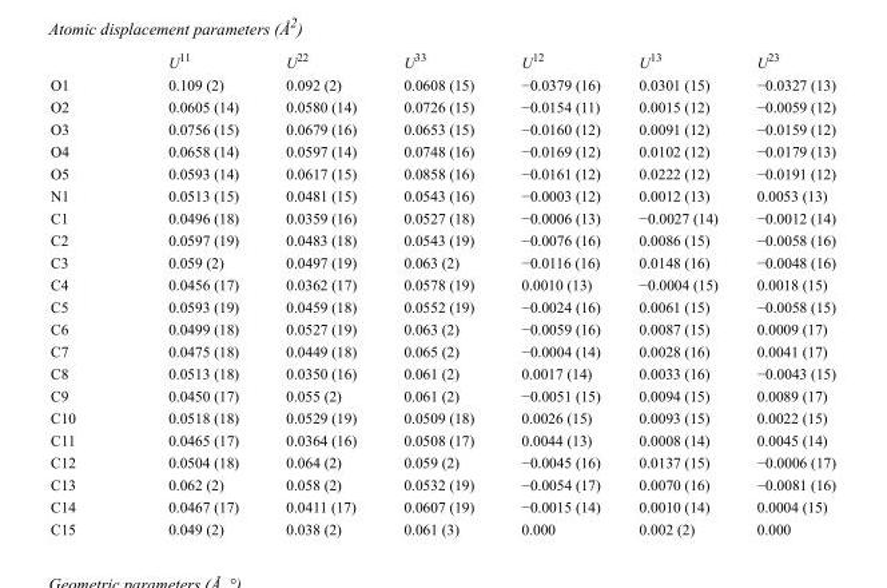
<table><thead><tr><td></td><td>U<sup>11</sup></td><td>U<sup>22</sup></td><td>U<sup>33</sup></td><td>U<sup>12</sup></td><td>U<sup>13</sup></td><td>U<sup>23</sup></td></tr></thead><tbody><tr><td>O1</td><td>0.109 (2)</td><td>0.092 (2)</td><td>0.0608 (15)</td><td>−0.0379 (16)</td><td>0.0301 (15)</td><td>−0.0327 (13)</td></tr><tr><td>O2</td><td>0.0605 (14)</td><td>0.0580 (14)</td><td>0.0726 (15)</td><td>−0.0154 (11)</td><td>0.0015 (12)</td><td>−0.0059 (12)</td></tr><tr><td>O3</td><td>0.0756 (15)</td><td>0.0679 (16)</td><td>0.0653 (15)</td><td>−0.0160 (12)</td><td>0.0091 (12)</td><td>−0.0159 (12)</td></tr><tr><td>O4</td><td>0.0658 (14)</td><td>0.0597 (14)</td><td>0.0748 (16)</td><td>−0.0169 (12)</td><td>0.0102 (12)</td><td>−0.0179 (13)</td></tr><tr><td>O5</td><td>0.0593 (14)</td><td>0.0617 (15)</td><td>0.0858 (16)</td><td>−0.0161 (12)</td><td>0.0222 (12)</td><td>−0.0191 (12)</td></tr><tr><td>N1</td><td>0.0513 (15)</td><td>0.0481 (15)</td><td>0.0543 (16)</td><td>−0.0003 (12)</td><td>0.0012 (13)</td><td>0.0053 (13)</td></tr><tr><td>C1</td><td>0.0496 (18)</td><td>0.0359 (16)</td><td>0.0527 (18)</td><td>−0.0006 (13)</td><td>−0.0027 (14)</td><td>−0.0012 (14)</td></tr><tr><td>C2</td><td>0.0597 (19)</td><td>0.0483 (18)</td><td>0.0543 (19)</td><td>−0.0076 (16)</td><td>0.0086 (15)</td><td>−0.0058 (16)</td></tr><tr><td>C3</td><td>0.059 (2)</td><td>0.0497 (19)</td><td>0.063 (2)</td><td>−0.0116 (16)</td><td>0.0148 (16)</td><td>−0.0048 (16)</td></tr><tr><td>C4</td><td>0.0456 (17)</td><td>0.0362 (17)</td><td>0.0578 (19)</td><td>0.0010 (13)</td><td>−0.0004 (15)</td><td>0.0018 (15)</td></tr><tr><td>C5</td><td>0.0593 (19)</td><td>0.0459 (18)</td><td>0.0552 (19)</td><td>−0.0024 (16)</td><td>0.0061 (15)</td><td>−0.0058 (15)</td></tr><tr><td>C6</td><td>0.0499 (18)</td><td>0.0527 (19)</td><td>0.063 (2)</td><td>−0.0059 (16)</td><td>0.0087 (15)</td><td>0.0009 (17)</td></tr><tr><td>C7</td><td>0.0475 (18)</td><td>0.0449 (18)</td><td>0.065 (2)</td><td>−0.0004 (14)</td><td>0.0028 (16)</td><td>0.0041 (17)</td></tr><tr><td>C8</td><td>0.0513 (18)</td><td>0.0350 (16)</td><td>0.061 (2)</td><td>0.0017 (14)</td><td>0.0033 (16)</td><td>−0.0043 (15)</td></tr><tr><td>C9</td><td>0.0450 (17)</td><td>0.055 (2)</td><td>0.061 (2)</td><td>−0.0051 (15)</td><td>0.0094 (15)</td><td>0.0089 (17)</td></tr><tr><td>C10</td><td>0.0518 (18)</td><td>0.0529 (19)</td><td>0.0509 (18)</td><td>0.0026 (15)</td><td>0.0093 (15)</td><td>0.0022 (15)</td></tr><tr><td>C11</td><td>0.0465 (17)</td><td>0.0364 (16)</td><td>0.0508 (17)</td><td>0.0044 (13)</td><td>0.0008 (14)</td><td>0.0045 (14)</td></tr><tr><td>C12</td><td>0.0504 (18)</td><td>0.064 (2)</td><td>0.059 (2)</td><td>−0.0045 (16)</td><td>0.0137 (15)</td><td>−0.0006 (17)</td></tr><tr><td>C13</td><td>0.062 (2)</td><td>0.058 (2)</td><td>0.0532 (19)</td><td>−0.0054 (17)</td><td>0.0070 (16)</td><td>−0.0081 (16)</td></tr><tr><td>C14</td><td>0.0467 (17)</td><td>0.0411 (17)</td><td>0.0607 (19)</td><td>−0.0015 (14)</td><td>0.0010 (14)</td><td>0.0004 (15)</td></tr><tr><td>C15</td><td>0.049 (2)</td><td>0.038 (2)</td><td>0.061 (3)</td><td>0.000</td><td>0.002 (2)</td><td>0.000</td></tr></tbody></table>